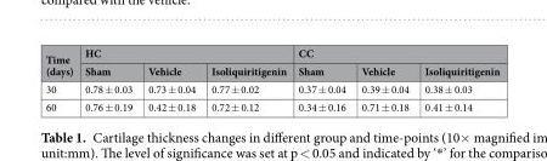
<table><thead><tr><td rowspan="2">Time (days)</td><td colspan="3">HC</td><td colspan="3">CC</td></tr><tr><td>Sham</td><td>Vehicle</td><td>Isoliquiritigenin</td><td>Sham</td><td>Vehicle</td><td>Isoliquiritigenin</td></tr></thead><tbody><tr><td>30</td><td>0.78 ± 0.03</td><td>0.73 ± 0.04</td><td>0.77 ± 0.02</td><td>0.37 ± 0.04</td><td>0.39 ± 0.04</td><td>0.38 ± 0.03</td></tr><tr><td>60</td><td>0.76 ± 0.19</td><td>0.42 ± 0.18</td><td>0.72 ± 0.12</td><td>0.34 ± 0.16</td><td>0.71 ± 0.18</td><td>0.41 ± 0.14</td></tr></tbody></table>